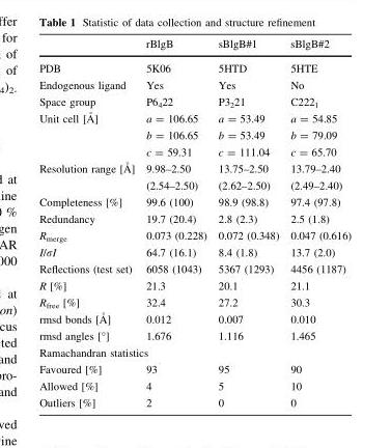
<table><thead><tr><td></td><td>rBlgB</td><td>sBlgB#1</td><td>sBlgB#2</td></tr></thead><tbody><tr><td>PDB</td><td>5K06</td><td>5HTD</td><td>5HTE</td></tr><tr><td>Endogenous ligand</td><td>Yes</td><td>Yes</td><td>No</td></tr><tr><td>Space group</td><td>P6<sub>4</sub>22</td><td>P3<sub>2</sub>21</td><td>C222<sub>1</sub></td></tr><tr><td rowspan="3">Unit cell [A˚ ]</td><td>a = 106.65</td><td>a = 53.49</td><td>a = 54.85</td></tr><tr><td>b = 106.65</td><td>b = 53.49</td><td>b = 79.09</td></tr><tr><td>c = 59.31</td><td>c = 111.04</td><td>c = 65.70</td></tr><tr><td>Resolution range [A˚ ]</td><td>9.98–2.50 (2.54–2.50)</td><td>13.75–2.50 (2.62–2.50)</td><td>13.79–2.40 (2.49–2.40)</td></tr><tr><td>Completeness [%]</td><td>99.6 (100)</td><td>98.9 (98.8)</td><td>97.4 (97.8)</td></tr><tr><td>Redundancy</td><td>19.7 (20.4)</td><td>2.8 (2.3)</td><td>2.5 (1.8)</td></tr><tr><td>R<sub>merge</sub></td><td>0.073 (0.228)</td><td>0.072 (0.348)</td><td>0.047 (0.616)</td></tr><tr><td>I/σI</td><td>64.7 (16.1)</td><td>8.4 (1.8)</td><td>13.7 (2.0)</td></tr><tr><td>Reflections (test set)</td><td>6058 (1043)</td><td>5367 (1293)</td><td>4456 (1187)</td></tr><tr><td>R [%]</td><td>21.3</td><td>20.1</td><td>21.1</td></tr><tr><td>R<sub>free</sub> [%]</td><td>32.4</td><td>27.2</td><td>30.3</td></tr><tr><td>rmsd bonds [A˚ ]</td><td>0.012</td><td>0.007</td><td>0.010</td></tr><tr><td>rmsd angles [°]</td><td>1.676</td><td>1.116</td><td>1.465</td></tr><tr><td colspan="4">Ramachandran statistics</td></tr><tr><td>Favoured [%]</td><td>93</td><td>95</td><td>90</td></tr><tr><td>Allowed [%]</td><td>4</td><td>5</td><td>10</td></tr><tr><td>Outliers [%]</td><td>2</td><td>0</td><td>0</td></tr></tbody></table>